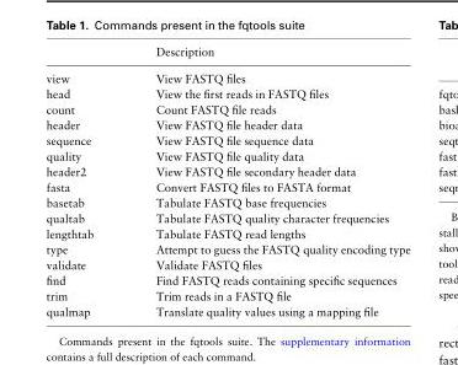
<table><thead><tr><td></td><td>Description</td></tr></thead><tbody><tr><td>view</td><td>View FASTQ files</td></tr><tr><td>head</td><td>View the first reads in FASTQ files</td></tr><tr><td>count</td><td>Count FASTQ file reads</td></tr><tr><td>header</td><td>View FASTQ file header data</td></tr><tr><td>sequence</td><td>View FASTQ file sequence data</td></tr><tr><td>quality</td><td>View FASTQ file quality data</td></tr><tr><td>header2</td><td>View FASTQ file secondary header data</td></tr><tr><td>fasta</td><td>Convert FASTQ files to FASTA format</td></tr><tr><td>basetab</td><td>Tabulate FASTQ base frequencies</td></tr><tr><td>qualtab</td><td>Tabulate FASTQ quality character frequencies</td></tr><tr><td>lengthtab</td><td>Tabulate FASTQ read lengths</td></tr><tr><td>type</td><td>Attempt to guess the FASTQ quality encoding type</td></tr><tr><td>validate</td><td>Validate FASTQ files</td></tr><tr><td>find</td><td>Find FASTQ reads containing specific sequences</td></tr><tr><td>trim</td><td>Trim reads in a FASTQ file</td></tr><tr><td>qualmap</td><td>Translate quality values using a mapping file</td></tr></tbody></table>